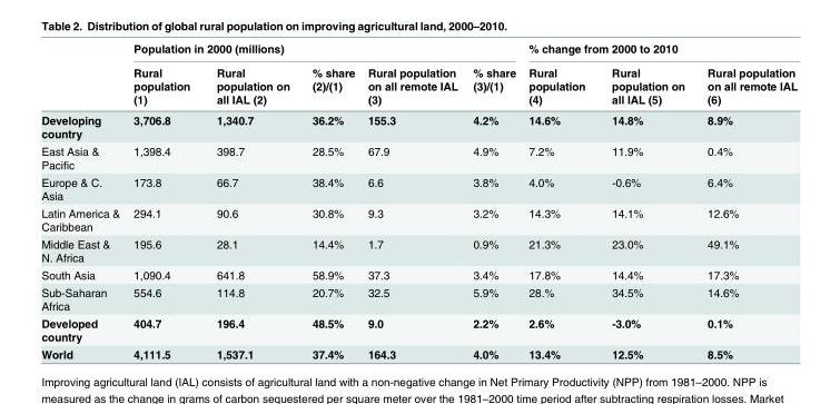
<table><thead><tr><td rowspan="2"></td><td colspan="5">Population in 2000 (millions)</td><td colspan="3">% change from 2000 to 2010</td></tr><tr><td>Rural population (1)</td><td>Rural population on all IAL (2)</td><td>% share (2)/(1)</td><td>Rural population on all remote IAL (3)</td><td>% share (3)/(1)</td><td>Rural population (4)</td><td>Rural population on all IAL (5)</td><td>Rural population on all remote IAL (6)</td></tr></thead><tbody><tr><td>Developing country</td><td>3,706.8</td><td>1,340.7</td><td>36.2%</td><td>155.3</td><td>4.2%</td><td>14.6%</td><td>14.8%</td><td>8.9%</td></tr><tr><td>East Asia &amp; Pacific</td><td>1,398.4</td><td>398.7</td><td>28.5%</td><td>67.9</td><td>4.9%</td><td>7.2%</td><td>11.9%</td><td>0.4%</td></tr><tr><td>Europe &amp; C. Asia</td><td>173.8</td><td>66.7</td><td>38.4%</td><td>6.6</td><td>3.8%</td><td>4.0%</td><td>-0.6%</td><td>6.4%</td></tr><tr><td>Latin America &amp; Caribbean</td><td>294.1</td><td>90.6</td><td>30.8%</td><td>9.3</td><td>3.2%</td><td>14.3%</td><td>14.1%</td><td>12.6%</td></tr><tr><td>Middle East &amp; N. Africa</td><td>195.6</td><td>28.1</td><td>14.4%</td><td>1.7</td><td>0.9%</td><td>21.3%</td><td>23.0%</td><td>49.1%</td></tr><tr><td>South Asia</td><td>1,090.4</td><td>641.8</td><td>58.9%</td><td>37.3</td><td>3.4%</td><td>17.8%</td><td>14.4%</td><td>17.3%</td></tr><tr><td>Sub-Saharan Africa</td><td>554.6</td><td>114.8</td><td>20.7%</td><td>32.5</td><td>5.9%</td><td>28.%</td><td>34.5%</td><td>14.6%</td></tr><tr><td>Developed country</td><td>404.7</td><td>196.4</td><td>48.5%</td><td>9.0</td><td>2.2%</td><td>2.6%</td><td>-3.0%</td><td>0.1%</td></tr><tr><td>World</td><td>4,111.5</td><td>1,537.1</td><td>37.4%</td><td>164.3</td><td>4.0%</td><td>13.4%</td><td>12.5%</td><td>8.5%</td></tr></tbody></table>